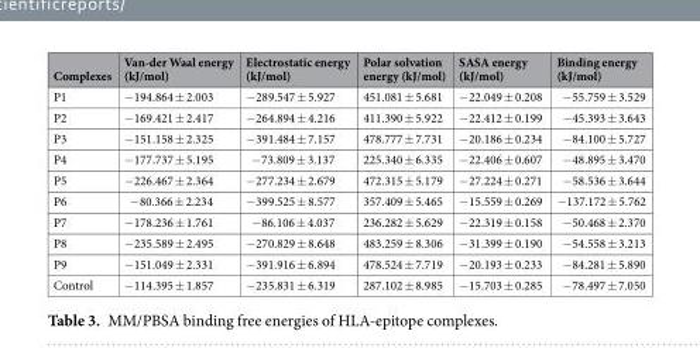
<table><thead><tr><td>Complexes</td><td>Van-der Waal energy (kJ/mol)</td><td>Electrostatic energy (kJ/mol)</td><td>Polar solvation energy (kJ/mol)</td><td>SASA energy (kJ/mol)</td><td>Binding energy (kJ/mol)</td></tr></thead><tbody><tr><td>P1</td><td>−194.864 ± 2.003</td><td>−289.547 ± 5.927</td><td>451.081 ± 5.681</td><td>−22.049 ± 0.208</td><td>−55.759 ± 3.529</td></tr><tr><td>P2</td><td>−169.421 ± 2.417</td><td>−264.894 ± 4.216</td><td>411.390 ± 5.922</td><td>−22.412 ± 0.199</td><td>−45.393 ± 3.643</td></tr><tr><td>P3</td><td>−151.158 ± 2.325</td><td>−391.484 ± 7.157</td><td>478.777 ± 7.731</td><td>−20.186 ± 0.234</td><td>−84.100 ± 5.727</td></tr><tr><td>P4</td><td>−177.737 ± 5.195</td><td>−73.809 ± 3.137</td><td>225.340 ± 6.335</td><td>−22.406 ± 0.607</td><td>−48.895 ± 3.470</td></tr><tr><td>P5</td><td>−226.467 ± 2.364</td><td>−277.234 ± 2.679</td><td>472.315 ± 5.179</td><td>−27.224 ± 0.271</td><td>−58.536 ± 3.644</td></tr><tr><td>P6</td><td>−80.366 ± 2.234</td><td>−399.525 ± 8.577</td><td>357.409 ± 5.465</td><td>−15.559 ± 0.269</td><td>−137.172 ± 5.762</td></tr><tr><td>P7</td><td>−178.236 ± 1.761</td><td>−86.106 ± 4.037</td><td>236.282 ± 5.629</td><td>−22.319 ± 0.158</td><td>−50.468 ± 2.370</td></tr><tr><td>P8</td><td>−235.589 ± 2.495</td><td>−270.829 ± 8.648</td><td>483.259 ± 8.306</td><td>−31.399 ± 0.190</td><td>−54.558 ± 3.213</td></tr><tr><td>P9</td><td>−151.049 ± 2.331</td><td>−391.916 ± 6.894</td><td>478.524 ± 7.719</td><td>−20.193 ± 0.233</td><td>−84.281 ± 5.890</td></tr><tr><td>Control</td><td>−114.395 ± 1.857</td><td>−235.831 ± 6.319</td><td>287.102 ± 8.985</td><td>−15.703 ± 0.285</td><td>−78.497 ± 7.050</td></tr></tbody></table>